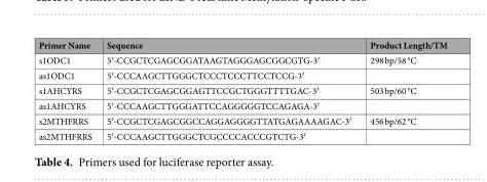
<table><thead><tr><td>Primer Name</td><td>Sequence</td><td>Product Length/TM</td></tr></thead><tbody><tr><td>s1ODC1</td><td>5′-CCGCTCGAGCGGATAAGTAGGGAGCGGCGTG-3′</td><td>298 bp/58 °C</td></tr><tr><td>as1ODC1</td><td>5′-CCCAAGCTTGGGCTCCCTCCCTTCCTCCG-3′</td><td></td></tr><tr><td>s1AHCYRS</td><td>5′-CCGCTCGAGCGGAGTTCCGCTGGGTTTTGAC-3′</td><td>503 bp/60 °C</td></tr><tr><td>as1AHCYRS</td><td>5′-CCCAAGCTTGGGATTCCAGGGGGTCCAGAGA-3′</td><td></td></tr><tr><td>s2MTHFRRS</td><td>5′-CCGCTCGAGCGGCCAGGAGGGGTTATGAGAAAAGAC-3′</td><td>456 bp/62 °C</td></tr><tr><td>as2MTHFRRS</td><td>5′-CCCAAGCTTGGGCTCGCCCCACCCGTCTG-3′</td><td></td></tr></tbody></table>